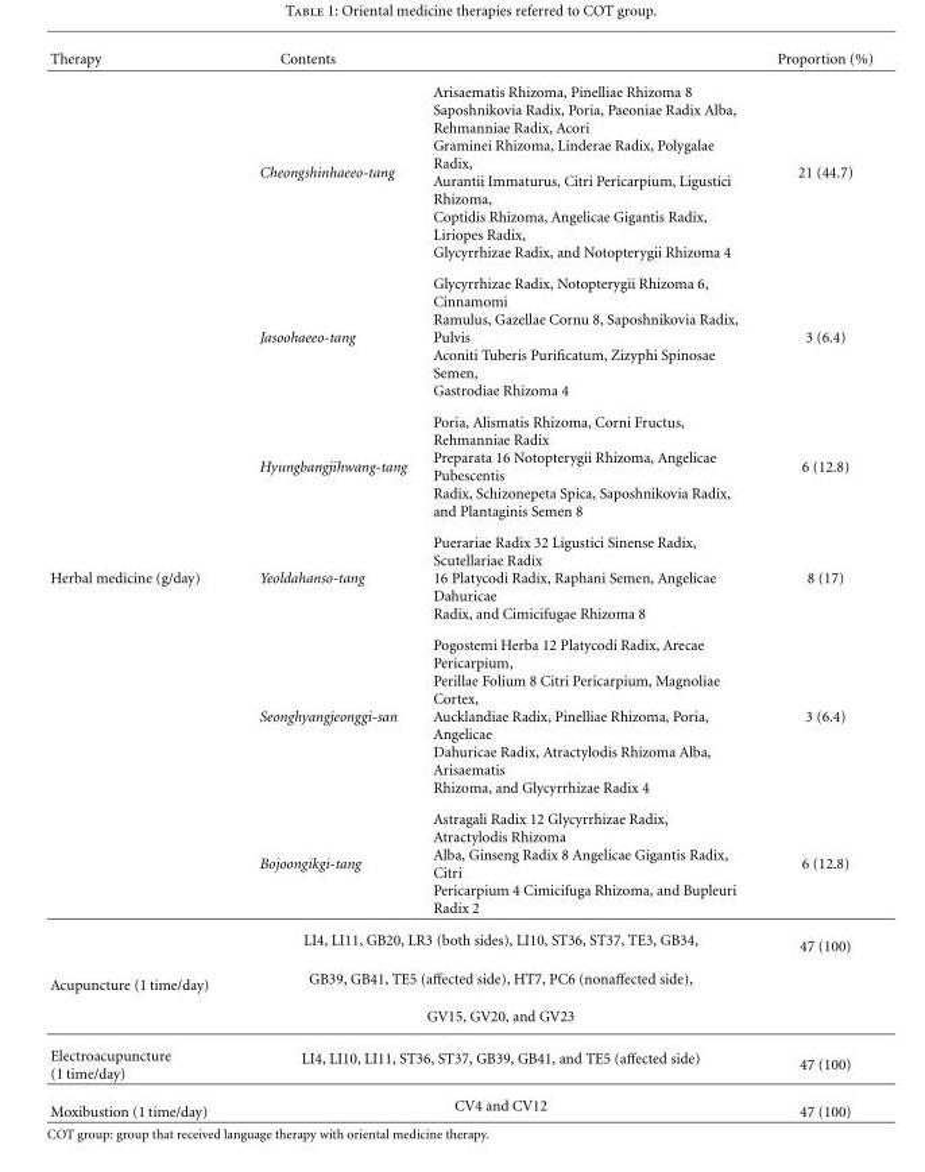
<table><thead><tr><td>Therapy</td><td>Contents</td><td></td><td>Proportion (%)</td></tr></thead><tbody><tr><td></td><td>Cheongshinhaeeo-tang</td><td>Arisaematis Rhizoma, Pinelliae Rhizoma 8 Saposhnikovia Radix, Poria, Paeoniae Radix Alba, Rehmanniae Radix, Acori Graminei Rhizoma, Linderae Radix, Polygalae Radix, Aurantii Immaturus, Citri Pericarpium, Ligustici Rhizoma, Coptidis Rhizoma, Angelicae Gigantis Radix, Liriopes Radix, Glycyrrhizae Radix, and Notopterygii Rhizoma 4</td><td>21 (44.7)</td></tr><tr><td></td><td>Jasoohaeeo-tang</td><td>Glycyrrhizae Radix, Notopterygii Rhizoma 6, Cinnamomi Ramulus, Gazellae Cornu 8, Saposhnikovia Radix, Pulvis Aconiti Tuberis Purificatum, Zizyphi Spinosae Semen, Gastrodiae Rhizoma 4</td><td>3 (6.4)</td></tr><tr><td></td><td>Hyungbangjihwang-tang</td><td>Poria, Alismatis Rhizoma, Corni Fructus, Rehmanniae Radix Preparata 16 Notopterygii Rhizoma, Angelicae Pubescentis Radix, Schizonepeta Spica, Saposhnikovia Radix, and Plantaginis Semen 8</td><td>6 (12.8)</td></tr><tr><td rowspan="4">Herbal medicine (g/day)</td><td>Yeoldahanso-tang</td><td>Puerariae Radix 32 Ligustici Sinense Radix, Scutellariae Radix 16 Platycodi Radix, Raphani Semen, Angelicae Dahuricae Radix, and Cimicifugae Rhizoma 8</td><td>8 (17)</td></tr><tr><td>Seonghyangjeonggi-san</td><td>Pogostemi Herba 12 Platycodi Radix, Arecae Pericarpium, Perillae Folium 8 Citri Pericarpium, Magnoliae Cortex, Aucklandiae Radix, Pinelliae Rhizoma, Poria, Angelicae Dahuricae Radix, Atractylodis Rhizoma Alba, Arisaematis Rhizoma, and Glycyrrhizae Radix 4</td><td>3 (6.4)</td></tr><tr><td>Bojoongikgi-tang</td><td>Astragali Radix 12 Glycyrrhizae Radix, Atractylodis Rhizoma Alba, Ginseng Radix 8 Angelicae Gigantis Radix, Citri Pericarpium 4 Cimicifuga Rhizoma, and Bupleuri Radix 2</td><td>6 (12.8)</td></tr><tr><td colspan="2">LI4, LI11, GB20, LR3 (both sides), LI10, ST36, ST37, TE3, GB34,</td><td>47 (100)</td></tr><tr><td rowspan="2">Acupuncture (1 time/day)</td><td colspan="2">GB39, GB41, TE5 (affected side), HT7, PC6 (nonaffected side),</td><td></td></tr><tr><td colspan="2">GV15, GV20, and GV23</td><td></td></tr><tr><td>Electroacupuncture (1 time/day)</td><td colspan="2">LI4, LI10, LI11, ST36, ST37, GB39, GB41, and TE5 (affected side)</td><td>47 (100)</td></tr><tr><td>Moxibustion (1 time/day)</td><td colspan="2">CV4 and CV12</td><td>47 (100)</td></tr></tbody></table>